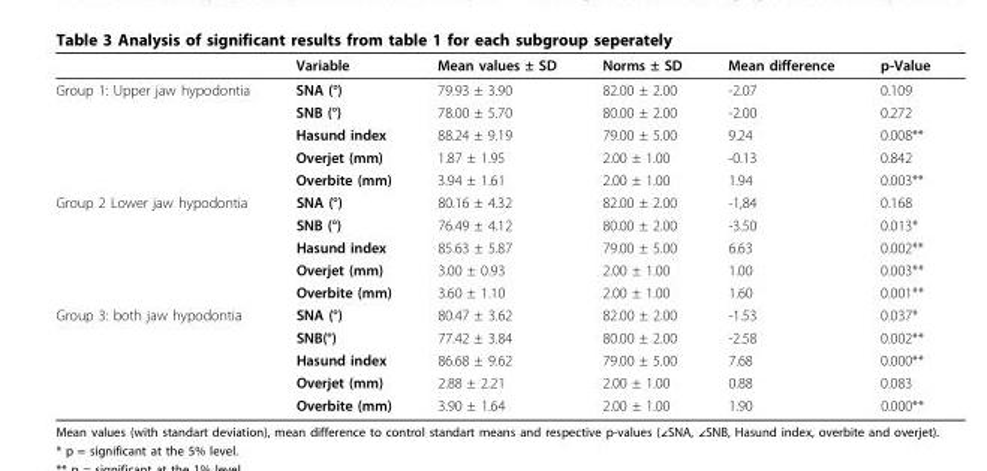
<table><thead><tr><td></td><td>Variable</td><td>Mean values ± SD</td><td>Norms ± SD</td><td>Mean difference</td><td>p-Value</td></tr></thead><tbody><tr><td rowspan="5">Group 1: Upper jaw hypodontia</td><td>SNA (°)</td><td>79.93 ± 3.90</td><td>82.00 ± 2.00</td><td>-2.07</td><td>0.109</td></tr><tr><td>SNB (°)</td><td>78.00 ± 5.70</td><td>80.00 ± 2.00</td><td>-2.00</td><td>0.272</td></tr><tr><td>Hasund index</td><td>88.24 ± 9.19</td><td>79.00 ± 5.00</td><td>9.24</td><td>0.008**</td></tr><tr><td>Overjet (mm)</td><td>1.87 ± 1.95</td><td>2.00 ± 1.00</td><td>-0.13</td><td>0.842</td></tr><tr><td>Overbite (mm)</td><td>3.94 ± 1.61</td><td>2.00 ± 1.00</td><td>1.94</td><td>0.003**</td></tr><tr><td rowspan="5">Group 2 Lower jaw hypodontia</td><td>SNA (°)</td><td>80.16 ± 4.32</td><td>82.00 ± 2.00</td><td>-1,84</td><td>0.168</td></tr><tr><td>SNB (°)</td><td>76.49 ± 4.12</td><td>80.00 ± 2.00</td><td>-3.50</td><td>0.013*</td></tr><tr><td>Hasund index</td><td>85.63 ± 5.87</td><td>79.00 ± 5.00</td><td>6.63</td><td>0.002**</td></tr><tr><td>Overjet (mm)</td><td>3.00 ± 0.93</td><td>2.00 ± 1.00</td><td>1.00</td><td>0.003**</td></tr><tr><td>Overbite (mm)</td><td>3.60 ± 1.10</td><td>2.00 ± 1.00</td><td>1.60</td><td>0.001**</td></tr><tr><td rowspan="5">Group 3: both jaw hypodontia</td><td>SNA (°)</td><td>80.47 ± 3.62</td><td>82.00 ± 2.00</td><td>-1.53</td><td>0.037*</td></tr><tr><td>SNB(°)</td><td>77.42 ± 3.84</td><td>80.00 ± 2.00</td><td>-2.58</td><td>0.002**</td></tr><tr><td>Hasund index</td><td>86.68 ± 9.62</td><td>79.00 ± 5.00</td><td>7.68</td><td>0.000**</td></tr><tr><td>Overjet (mm)</td><td>2.88 ± 2.21</td><td>2.00 ± 1.00</td><td>0.88</td><td>0.083</td></tr><tr><td>Overbite (mm)</td><td>3.90 ± 1.64</td><td>2.00 ± 1.00</td><td>1.90</td><td>0.000**</td></tr></tbody></table>